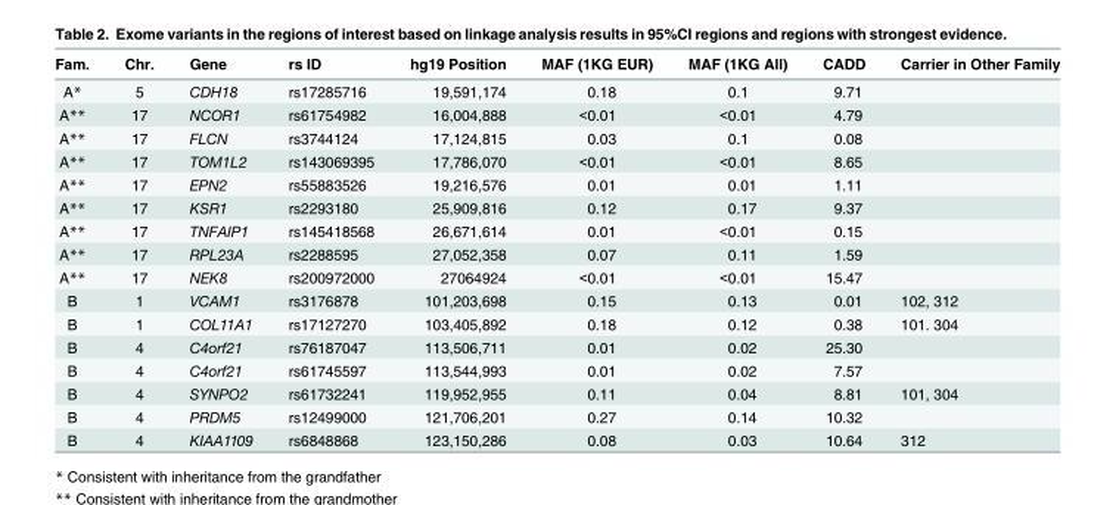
<table><thead><tr><td>Fam.</td><td>Chr.</td><td>Gene</td><td>rs ID</td><td>hg19 Position</td><td>MAF (1KG EUR)</td><td>MAF (1KG All)</td><td>CADD</td><td>Carrier in Other Family</td></tr></thead><tbody><tr><td>A*</td><td>5</td><td>CDH18</td><td>rs17285716</td><td>19,591,174</td><td>0.18</td><td>0.1</td><td>9.71</td><td></td></tr><tr><td>A**</td><td>17</td><td>NCOR1</td><td>rs61754982</td><td>16,004,888</td><td>&lt;0.01</td><td>&lt;0.01</td><td>4.79</td><td></td></tr><tr><td>A**</td><td>17</td><td>FLCN</td><td>rs3744124</td><td>17,124,815</td><td>0.03</td><td>0.1</td><td>0.08</td><td></td></tr><tr><td>A**</td><td>17</td><td>TOM1L2</td><td>rs143069395</td><td>17,786,070</td><td>&lt;0.01</td><td>&lt;0.01</td><td>8.65</td><td></td></tr><tr><td>A**</td><td>17</td><td>EPN2</td><td>rs55883526</td><td>19,216,576</td><td>0.01</td><td>0.01</td><td>1.11</td><td></td></tr><tr><td>A**</td><td>17</td><td>KSR1</td><td>rs2293180</td><td>25,909,816</td><td>0.12</td><td>0.17</td><td>9.37</td><td></td></tr><tr><td>A**</td><td>17</td><td>TNFAIP1</td><td>rs145418568</td><td>26,671,614</td><td>0.01</td><td>&lt;0.01</td><td>0.15</td><td></td></tr><tr><td>A**</td><td>17</td><td>RPL23A</td><td>rs2288595</td><td>27,052,358</td><td>0.07</td><td>0.11</td><td>1.59</td><td></td></tr><tr><td>A**</td><td>17</td><td>NEK8</td><td>rs200972000</td><td>27064924</td><td>&lt;0.01</td><td>&lt;0.01</td><td>15.47</td><td></td></tr><tr><td>B</td><td>1</td><td>VCAM1</td><td>rs3176878</td><td>101,203,698</td><td>0.15</td><td>0.13</td><td>0.01</td><td>102, 312</td></tr><tr><td>B</td><td>1</td><td>COL11A1</td><td>rs17127270</td><td>103,405,892</td><td>0.18</td><td>0.12</td><td>0.38</td><td>101. 304</td></tr><tr><td>B</td><td>4</td><td>C4orf21</td><td>rs76187047</td><td>113,506,711</td><td>0.01</td><td>0.02</td><td>25.30</td><td></td></tr><tr><td>B</td><td>4</td><td>C4orf21</td><td>rs61745597</td><td>113,544,993</td><td>0.01</td><td>0.02</td><td>7.57</td><td></td></tr><tr><td>B</td><td>4</td><td>SYNPO2</td><td>rs61732241</td><td>119,952,955</td><td>0.11</td><td>0.04</td><td>8.81</td><td>101, 304</td></tr><tr><td>B</td><td>4</td><td>PRDM5</td><td>rs12499000</td><td>121,706,201</td><td>0.27</td><td>0.14</td><td>10.32</td><td></td></tr><tr><td>B</td><td>4</td><td>KIAA1109</td><td>rs6848868</td><td>123,150,286</td><td>0.08</td><td>0.03</td><td>10.64</td><td>312</td></tr></tbody></table>